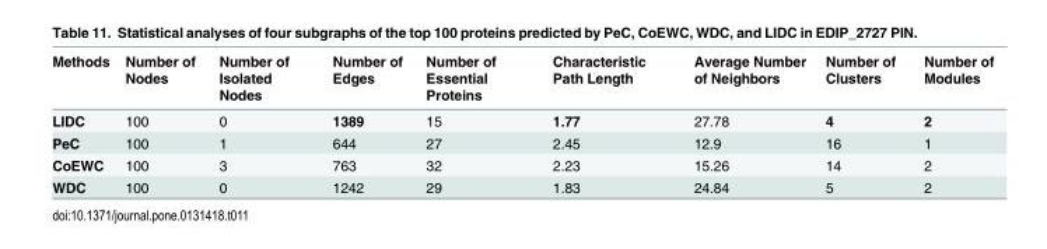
<table><thead><tr><td>Methods</td><td>Number of Nodes</td><td>Number of Isolated Nodes</td><td>Number of Edges</td><td>Number of Essential Proteins</td><td>Characteristic Path Length</td><td>Average Number of Neighbors</td><td>Number of Clusters</td><td>Number of Modules</td></tr></thead><tbody><tr><td>LIDC</td><td>100</td><td>0</td><td>1389</td><td>15</td><td>1.77</td><td>27.78</td><td>4</td><td>2</td></tr><tr><td>PeC</td><td>100</td><td>1</td><td>644</td><td>27</td><td>2.45</td><td>12.9</td><td>16</td><td>1</td></tr><tr><td>CoEWC</td><td>100</td><td>3</td><td>763</td><td>32</td><td>2.23</td><td>15.26</td><td>14</td><td>2</td></tr><tr><td>WDC</td><td>100</td><td>0</td><td>1242</td><td>29</td><td>1.83</td><td>24.84</td><td>5</td><td>2</td></tr></tbody></table>